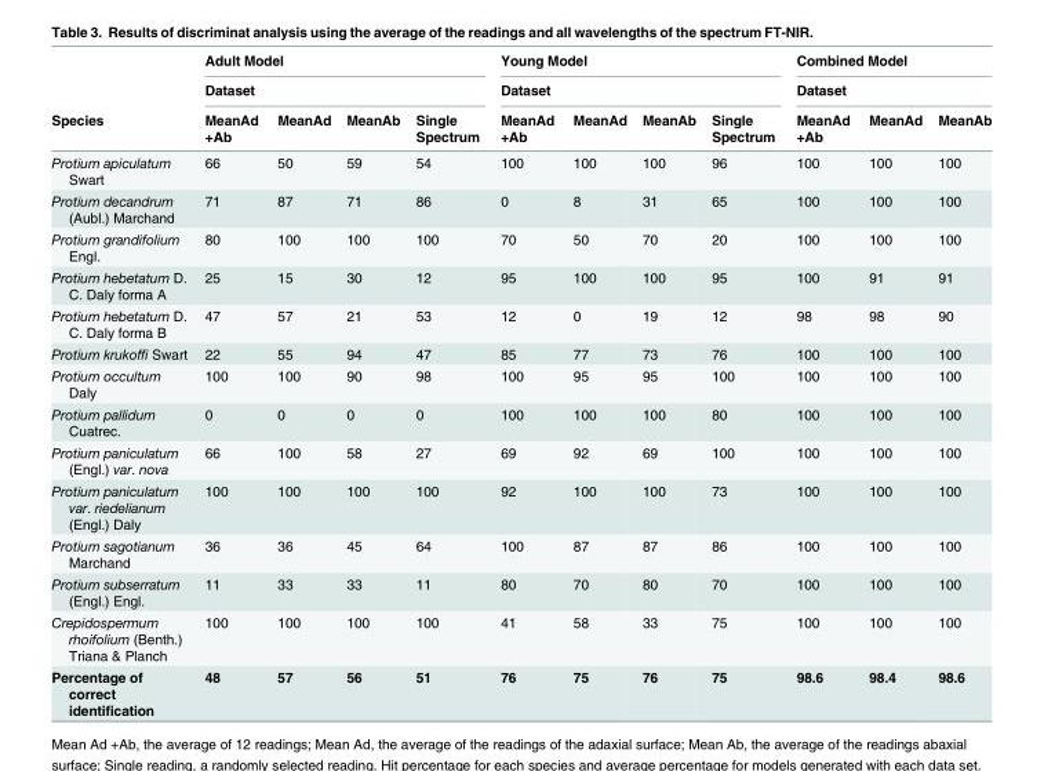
<table><thead><tr><td rowspan="3">Species</td><td rowspan="2" colspan="4">Adult Model Dataset</td><td rowspan="2" colspan="4">Young Model Dataset</td><td rowspan="2" colspan="3">Combined Model Dataset</td></tr><tr></tr><tr><td>MeanAd +Ab</td><td>MeanAd</td><td>MeanAb</td><td>Single Spectrum</td><td>MeanAd +Ab</td><td>MeanAd</td><td>MeanAb</td><td>Single Spectrum</td><td>MeanAd +Ab</td><td>MeanAd</td><td>MeanAb</td></tr></thead><tbody><tr><td>Protium apiculatum Swart</td><td>66</td><td>50</td><td>59</td><td>54</td><td>100</td><td>100</td><td>100</td><td>96</td><td>100</td><td>100</td><td>100</td></tr><tr><td>Protium decandrum (Aubl.) Marchand</td><td>71</td><td>87</td><td>71</td><td>86</td><td>0</td><td>8</td><td>31</td><td>65</td><td>100</td><td>100</td><td>100</td></tr><tr><td>Protium grandifolium Engl.</td><td>80</td><td>100</td><td>100</td><td>100</td><td>70</td><td>50</td><td>70</td><td>20</td><td>100</td><td>100</td><td>100</td></tr><tr><td>Protium hebetatum D. C. Daly forma A</td><td>25</td><td>15</td><td>30</td><td>12</td><td>95</td><td>100</td><td>100</td><td>95</td><td>100</td><td>91</td><td>91</td></tr><tr><td>Protium hebetatum D. C. Daly forma B</td><td>47</td><td>57</td><td>21</td><td>53</td><td>12</td><td>0</td><td>19</td><td>12</td><td>98</td><td>98</td><td>90</td></tr><tr><td>Protium krukoffi Swart</td><td>22</td><td>55</td><td>94</td><td>47</td><td>85</td><td>77</td><td>73</td><td>76</td><td>100</td><td>100</td><td>100</td></tr><tr><td>Protium occultum Daly</td><td>100</td><td>100</td><td>90</td><td>98</td><td>100</td><td>95</td><td>95</td><td>100</td><td>100</td><td>100</td><td>100</td></tr><tr><td>Protium pallidum Cuatrec.</td><td>0</td><td>0</td><td>0</td><td>0</td><td>100</td><td>100</td><td>100</td><td>80</td><td>100</td><td>100</td><td>100</td></tr><tr><td>Protium paniculatum (Engl.) var. nova</td><td>66</td><td>100</td><td>58</td><td>27</td><td>69</td><td>92</td><td>69</td><td>100</td><td>100</td><td>100</td><td>100</td></tr><tr><td>Protium paniculatum var. riedelianum (Engl.) Daly</td><td>100</td><td>100</td><td>100</td><td>100</td><td>92</td><td>100</td><td>100</td><td>73</td><td>100</td><td>100</td><td>100</td></tr><tr><td>Protium sagotianum Marchand</td><td>36</td><td>36</td><td>45</td><td>64</td><td>100</td><td>87</td><td>87</td><td>86</td><td>100</td><td>100</td><td>100</td></tr><tr><td>Protium subserratum (Engl.) Engl.</td><td>11</td><td>33</td><td>33</td><td>11</td><td>80</td><td>70</td><td>80</td><td>70</td><td>100</td><td>100</td><td>100</td></tr><tr><td>Crepidospermum rhoifolium (Benth.) Triana &amp; Planch</td><td>100</td><td>100</td><td>100</td><td>100</td><td>41</td><td>58</td><td>33</td><td>75</td><td>100</td><td>100</td><td>100</td></tr><tr><td>Percentage of correct identification</td><td>48</td><td>57</td><td>56</td><td>51</td><td>76</td><td>75</td><td>76</td><td>75</td><td>98.6</td><td>98.4</td><td>98.6</td></tr></tbody></table>